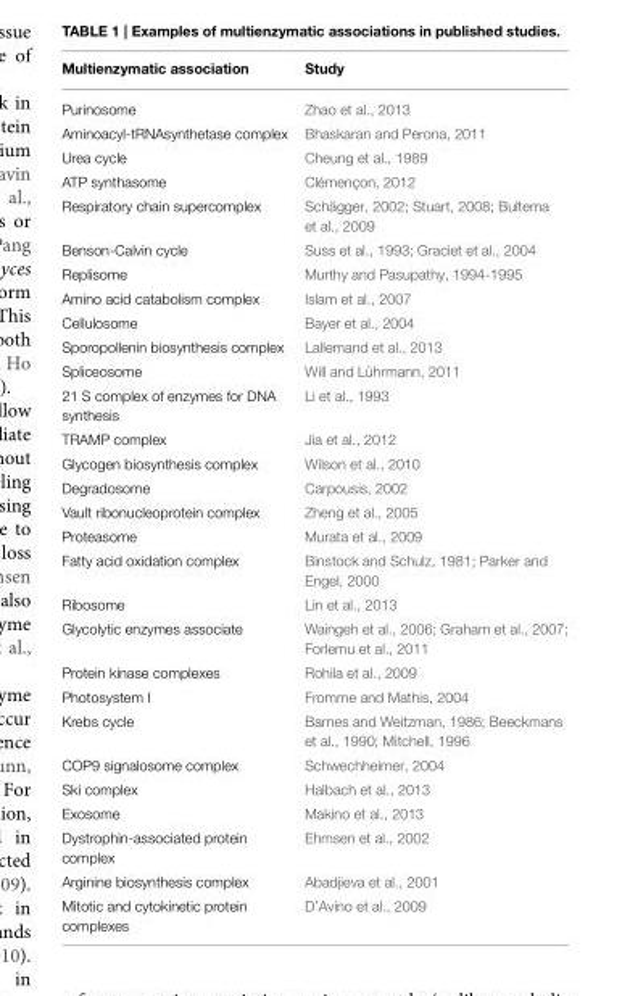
<table><thead><tr><td>Multienzymatic association</td><td>Study</td></tr></thead><tbody><tr><td>Purinosome</td><td>Zhao et al., 2013</td></tr><tr><td>Aminoacyl-tRNAsynthetase complex</td><td>Bhaskaran and Perona, 2011</td></tr><tr><td>Urea cycle</td><td>Cheung et al., 1989</td></tr><tr><td>ATP synthasome</td><td>Clémençon, 2012</td></tr><tr><td>Respiratory chain supercomplex</td><td>Schägger, 2002; Stuart, 2008; Bultema et al., 2009</td></tr><tr><td>Benson-Calvin cycle</td><td>Suss et al., 1993; Graciet et al., 2004</td></tr><tr><td>Replisome</td><td>Murthy and Pasupathy, 1994-1995</td></tr><tr><td>Amino acid catabolism complex</td><td>Islam et al., 2007</td></tr><tr><td>Cellulosome</td><td>Bayer et al., 2004</td></tr><tr><td>Sporopollenin biosynthesis complex</td><td>Lallemand et al., 2013</td></tr><tr><td>Spliceosome</td><td>Will and Lührmann, 2011</td></tr><tr><td>21 S complex of enzymes for DNA synthesis</td><td>Li et al., 1993</td></tr><tr><td>TRAMP complex</td><td>Jia et al., 2012</td></tr><tr><td>Glycogen biosynthesis complex</td><td>Wilson et al., 2010</td></tr><tr><td>Degradosome</td><td>Carpousis, 2002</td></tr><tr><td>Vault ribonucleoprotein complex</td><td>Zheng et al., 2005</td></tr><tr><td>Proteasome</td><td>Murata et al., 2009</td></tr><tr><td>Fatty acid oxidation complex</td><td>Binstock and Schulz, 1981; Parker and Engel, 2000</td></tr><tr><td>Ribosome</td><td>Lin et al., 2013</td></tr><tr><td>Glycolytic enzymes associate</td><td>Waingeh et al., 2006; Graham et al., 2007; Forlemu et al., 2011</td></tr><tr><td>Protein kinase complexes</td><td>Rohila et al., 2009</td></tr><tr><td>Photosystem I</td><td>Fromme and Mathis, 2004</td></tr><tr><td>Krebs cycle</td><td>Barnes and Weitzman, 1986; Beeckmans et al., 1990; Mitchell, 1996</td></tr><tr><td>COP9 signalosome complex</td><td>Schwechheimer, 2004</td></tr><tr><td>Ski complex</td><td>Halbach et al., 2013</td></tr><tr><td>Exosome</td><td>Makino et al., 2013</td></tr><tr><td>Dystrophin-associated protein complex</td><td>Ehmsen et al., 2002</td></tr><tr><td>Arginine biosynthesis complex</td><td>Abadjieva et al., 2001</td></tr><tr><td>Mitotic and cytokinetic protein complexes</td><td>D’Avino et al., 2009</td></tr></tbody></table>